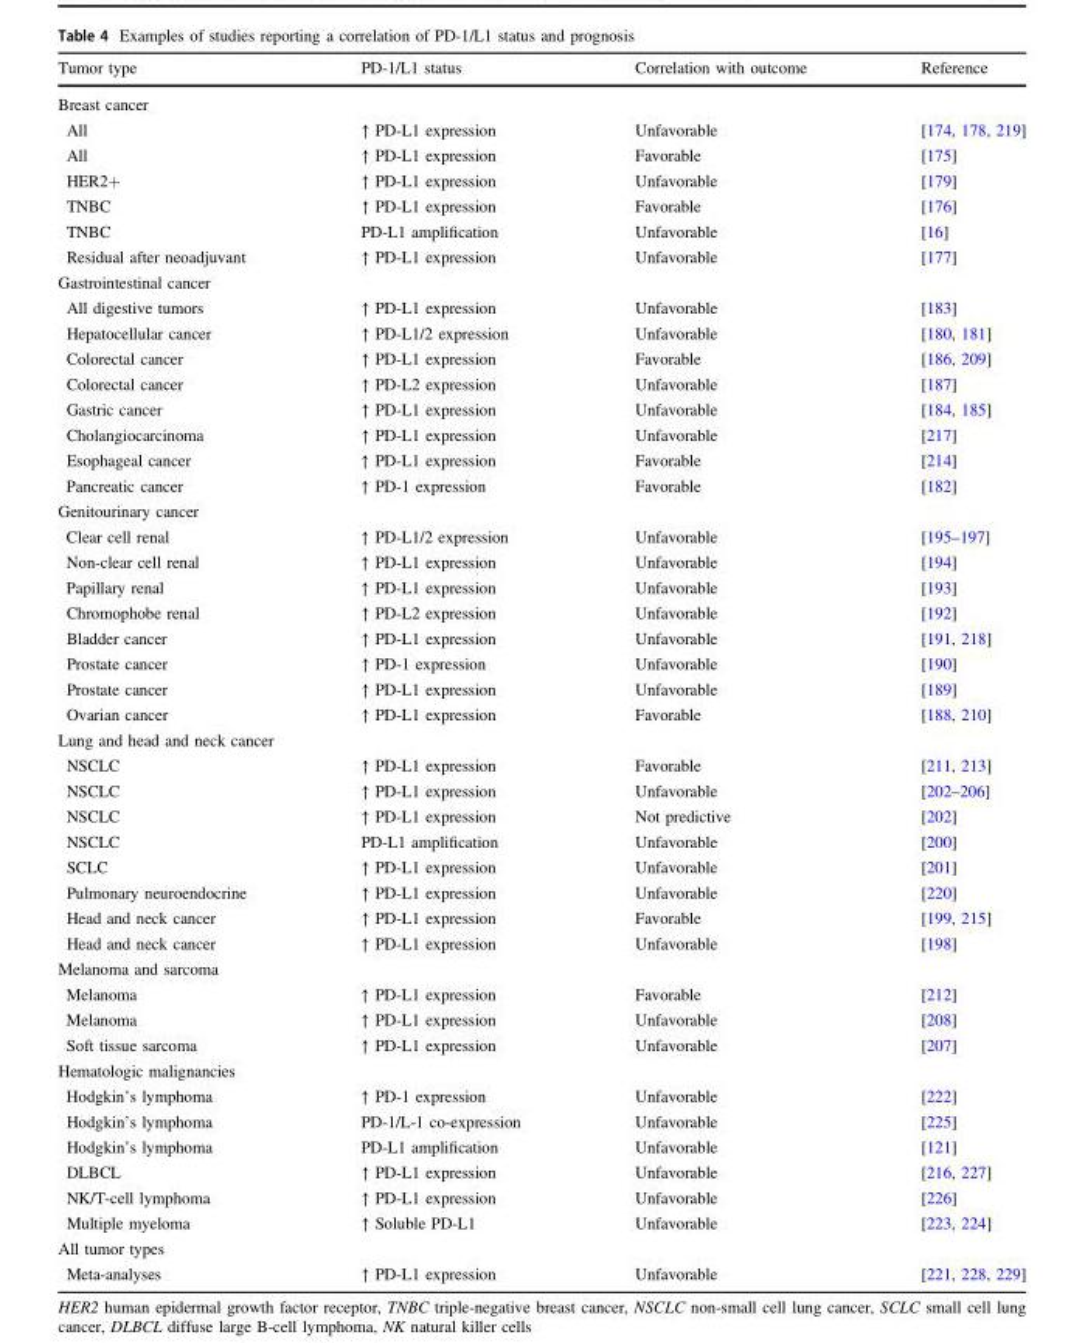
<table><thead><tr><td>Tumor type</td><td>PD-1/L1 status</td><td>Correlation with outcome</td><td>Reference</td></tr></thead><tbody><tr><td colspan="4">Breast cancer</td></tr><tr><td>All</td><td>↑ PD-L1 expression</td><td>Unfavorable</td><td>[174, 178, 219]</td></tr><tr><td>All</td><td>↑ PD-L1 expression</td><td>Favorable</td><td>[175]</td></tr><tr><td>HER2+</td><td>↑ PD-L1 expression</td><td>Unfavorable</td><td>[179]</td></tr><tr><td>TNBC</td><td>↑ PD-L1 expression</td><td>Favorable</td><td>[176]</td></tr><tr><td>TNBC</td><td>PD-L1 amplification</td><td>Unfavorable</td><td>[16]</td></tr><tr><td>Residual after neoadjuvant</td><td>↑ PD-L1 expression</td><td>Unfavorable</td><td>[177]</td></tr><tr><td colspan="4">Gastrointestinal cancer</td></tr><tr><td>All digestive tumors</td><td>↑ PD-L1 expression</td><td>Unfavorable</td><td>[183]</td></tr><tr><td>Hepatocellular cancer</td><td>↑ PD-L1/2 expression</td><td>Unfavorable</td><td>[180, 181]</td></tr><tr><td>Colorectal cancer</td><td>↑ PD-L1 expression</td><td>Favorable</td><td>[186, 209]</td></tr><tr><td>Colorectal cancer</td><td>↑ PD-L2 expression</td><td>Unfavorable</td><td>[187]</td></tr><tr><td>Gastric cancer</td><td>↑ PD-L1 expression</td><td>Unfavorable</td><td>[184, 185]</td></tr><tr><td>Cholangiocarcinoma</td><td>↑ PD-L1 expression</td><td>Unfavorable</td><td>[217]</td></tr><tr><td>Esophageal cancer</td><td>↑ PD-L1 expression</td><td>Favorable</td><td>[214]</td></tr><tr><td>Pancreatic cancer</td><td>↑ PD-1 expression</td><td>Favorable</td><td>[182]</td></tr><tr><td colspan="4">Genitourinary cancer</td></tr><tr><td>Clear cell renal</td><td>↑ PD-L1/2 expression</td><td>Unfavorable</td><td>[195–197]</td></tr><tr><td>Non-clear cell renal</td><td>↑ PD-L1 expression</td><td>Unfavorable</td><td>[194]</td></tr><tr><td>Papillary renal</td><td>↑ PD-L1 expression</td><td>Unfavorable</td><td>[193]</td></tr><tr><td>Chromophobe renal</td><td>↑ PD-L2 expression</td><td>Unfavorable</td><td>[192]</td></tr><tr><td>Bladder cancer</td><td>↑ PD-L1 expression</td><td>Unfavorable</td><td>[191, 218]</td></tr><tr><td>Prostate cancer</td><td>↑ PD-1 expression</td><td>Unfavorable</td><td>[190]</td></tr><tr><td>Prostate cancer</td><td>↑ PD-L1 expression</td><td>Unfavorable</td><td>[189]</td></tr><tr><td>Ovarian cancer</td><td>↑ PD-L1 expression</td><td>Favorable</td><td>[188, 210]</td></tr><tr><td colspan="4">Lung and head and neck cancer</td></tr><tr><td>NSCLC</td><td>↑ PD-L1 expression</td><td>Favorable</td><td>[211, 213]</td></tr><tr><td>NSCLC</td><td>↑ PD-L1 expression</td><td>Unfavorable</td><td>[202–206]</td></tr><tr><td>NSCLC</td><td>↑ PD-L1 expression</td><td>Not predictive</td><td>[202]</td></tr><tr><td>NSCLC</td><td>PD-L1 amplification</td><td>Unfavorable</td><td>[200]</td></tr><tr><td>SCLC</td><td>↑ PD-L1 expression</td><td>Unfavorable</td><td>[201]</td></tr><tr><td>Pulmonary neuroendocrine</td><td>↑ PD-L1 expression</td><td>Unfavorable</td><td>[220]</td></tr><tr><td>Head and neck cancer</td><td>↑ PD-L1 expression</td><td>Favorable</td><td>[199, 215]</td></tr><tr><td>Head and neck cancer</td><td>↑ PD-L1 expression</td><td>Unfavorable</td><td>[198]</td></tr><tr><td colspan="4">Melanoma and sarcoma</td></tr><tr><td>Melanoma</td><td>↑ PD-L1 expression</td><td>Favorable</td><td>[212]</td></tr><tr><td>Melanoma</td><td>↑ PD-L1 expression</td><td>Unfavorable</td><td>[208]</td></tr><tr><td>Soft tissue sarcoma</td><td>↑ PD-L1 expression</td><td>Unfavorable</td><td>[207]</td></tr><tr><td colspan="4">Hematologic malignancies</td></tr><tr><td>Hodgkin’s lymphoma</td><td>↑ PD-1 expression</td><td>Unfavorable</td><td>[222]</td></tr><tr><td>Hodgkin’s lymphoma</td><td>PD-1/L-1 co-expression</td><td>Unfavorable</td><td>[225]</td></tr><tr><td>Hodgkin’s lymphoma</td><td>PD-L1 amplification</td><td>Unfavorable</td><td>[121]</td></tr><tr><td>DLBCL</td><td>↑ PD-L1 expression</td><td>Unfavorable</td><td>[216, 227]</td></tr><tr><td>NK/T-cell lymphoma</td><td>↑ PD-L1 expression</td><td>Unfavorable</td><td>[226]</td></tr><tr><td>Multiple myeloma</td><td>↑ Soluble PD-L1</td><td>Unfavorable</td><td>[223, 224]</td></tr><tr><td colspan="4">All tumor types</td></tr><tr><td>Meta-analyses</td><td>↑ PD-L1 expression</td><td>Unfavorable</td><td>[221, 228, 229]</td></tr></tbody></table>